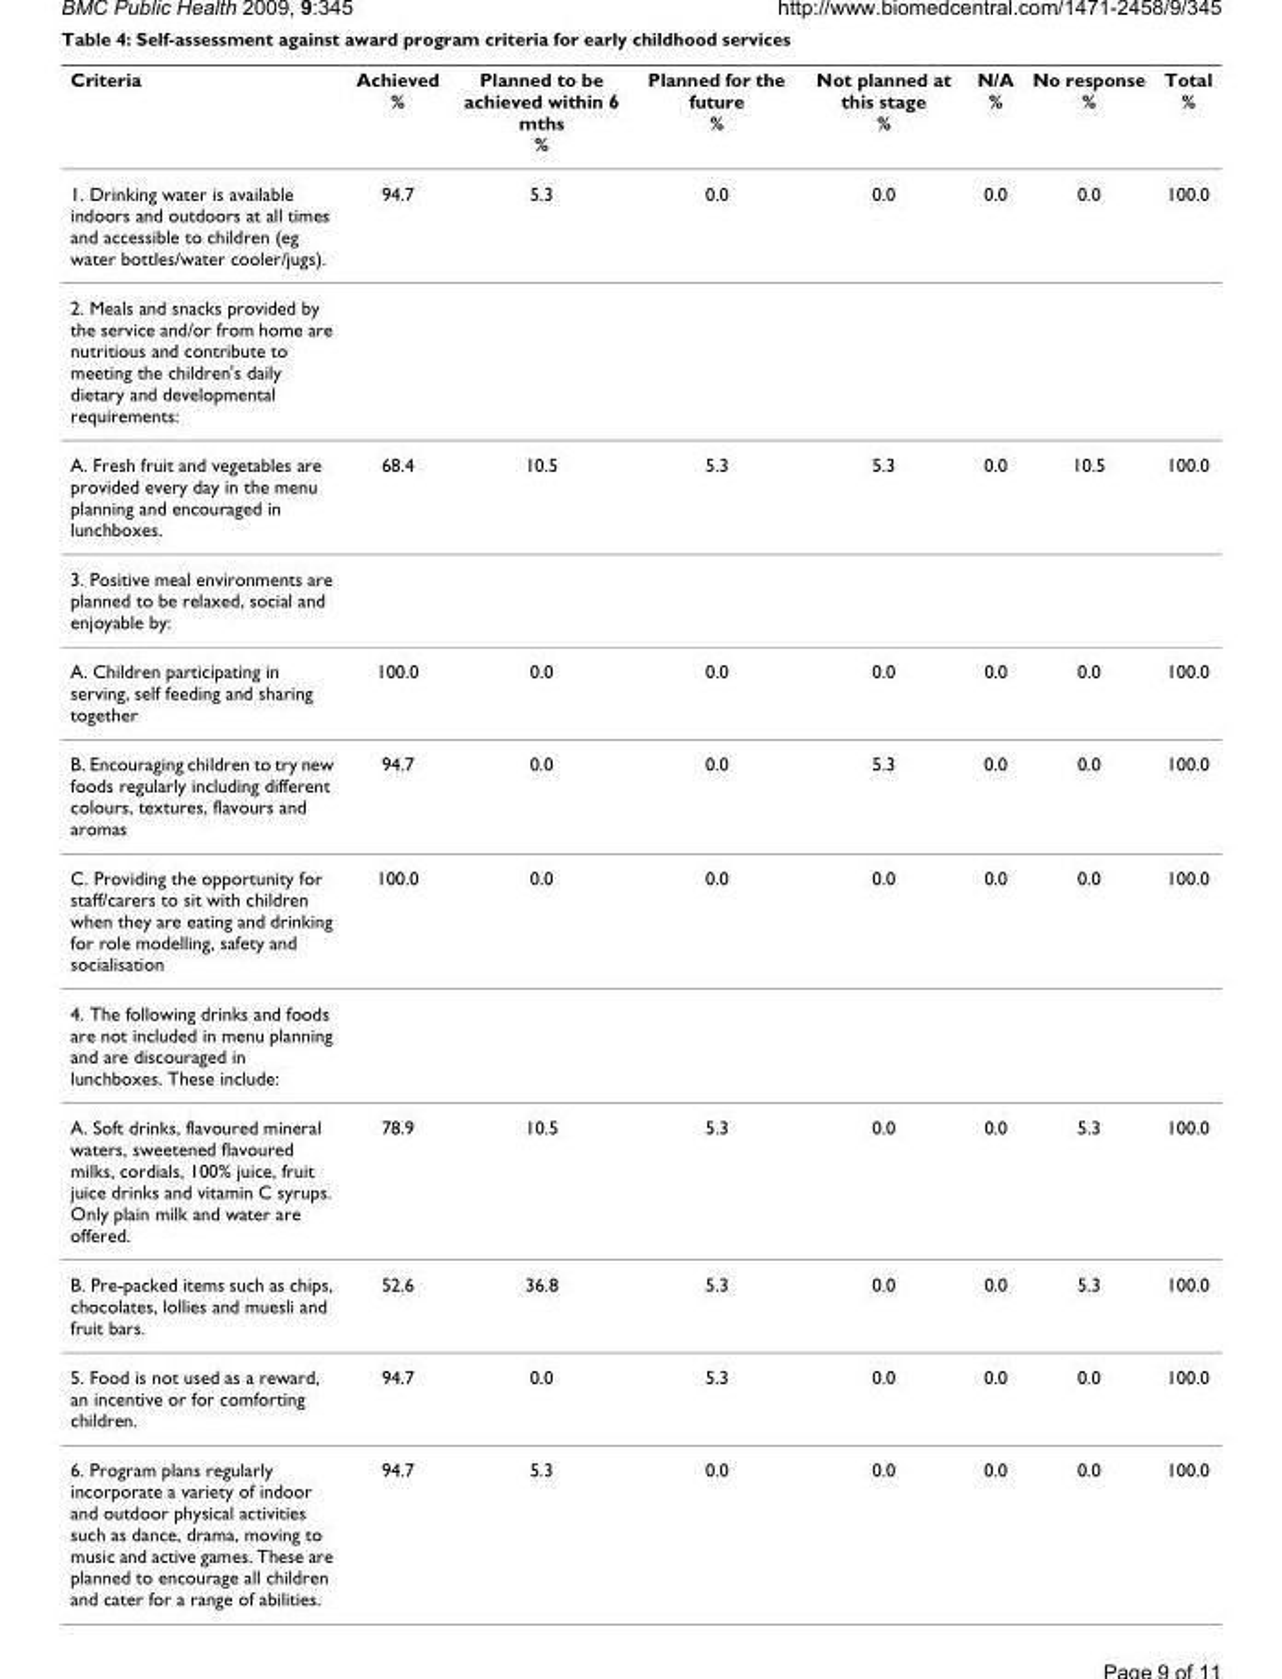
<table><thead><tr><td>Criteria</td><td>Achieved %</td><td>Planned to be achieved within 6 mths %</td><td>Planned for the future %</td><td>Not planned at this stage %</td><td>N/A %</td><td>No response %</td><td>Total %</td></tr></thead><tbody><tr><td>1. Drinking water is available indoors and outdoors at all times and accessible to children (eg water bottles/water cooler/jugs).</td><td>94.7</td><td>5.3</td><td>0.0</td><td>0.0</td><td>0.0</td><td>0.0</td><td>100.0</td></tr><tr><td colspan="8">2. Meals and snacks provided by the service and/or from home are nutritious and contribute to meeting the children&#x27;s daily dietary and developmental requirements:</td></tr><tr><td>A. Fresh fruit and vegetables are provided every day in the menu planning and encouraged in lunchboxes.</td><td>68.4</td><td>10.5</td><td>5.3</td><td>5.3</td><td>0.0</td><td>10.5</td><td>100.0</td></tr><tr><td colspan="8">3. Positive meal environments are planned to be relaxed, social and enjoyable by:</td></tr><tr><td>A. Children participating in serving, self feeding and sharing together</td><td>100.0</td><td>0.0</td><td>0.0</td><td>0.0</td><td>0.0</td><td>0.0</td><td>100.0</td></tr><tr><td>B. Encouraging children to try new foods regularly including different colours, textures, flavours and aromas</td><td>94.7</td><td>0.0</td><td>0.0</td><td>5.3</td><td>0.0</td><td>0.0</td><td>100.0</td></tr><tr><td>C. Providing the opportunity for staff/carers to sit with children when they are eating and drinking for role modelling, safety and socialisation</td><td>100.0</td><td>0.0</td><td>0.0</td><td>0.0</td><td>0.0</td><td>0.0</td><td>100.0</td></tr><tr><td colspan="8">4. The following drinks and foods are not included in menu planning and are discouraged in lunchboxes. These include:</td></tr><tr><td>A. Soft drinks, flavoured mineral waters, sweetened flavoured milks, cordials, 100% juice, fruit juice drinks and vitamin C syrups. Only plain milk and water are offered.</td><td>78.9</td><td>10.5</td><td>5.3</td><td>0.0</td><td>0.0</td><td>5.3</td><td>100.0</td></tr><tr><td>B. Pre-packed items such as chips, chocolates, lollies and muesli and fruit bars.</td><td>52.6</td><td>36.8</td><td>5.3</td><td>0.0</td><td>0.0</td><td>5.3</td><td>100.0</td></tr><tr><td>5. Food is not used as a reward, an incentive or for comforting children.</td><td>94.7</td><td>0.0</td><td>5.3</td><td>0.0</td><td>0.0</td><td>0.0</td><td>100.0</td></tr><tr><td>6. Program plans regularly incorporate a variety of indoor and outdoor physical activities such as dance, drama, moving to music and active games. These are planned to encourage all children and cater for a range of abilities.</td><td>94.7</td><td>5.3</td><td>0.0</td><td>0.0</td><td>0.0</td><td>0.0</td><td>100.0</td></tr></tbody></table>